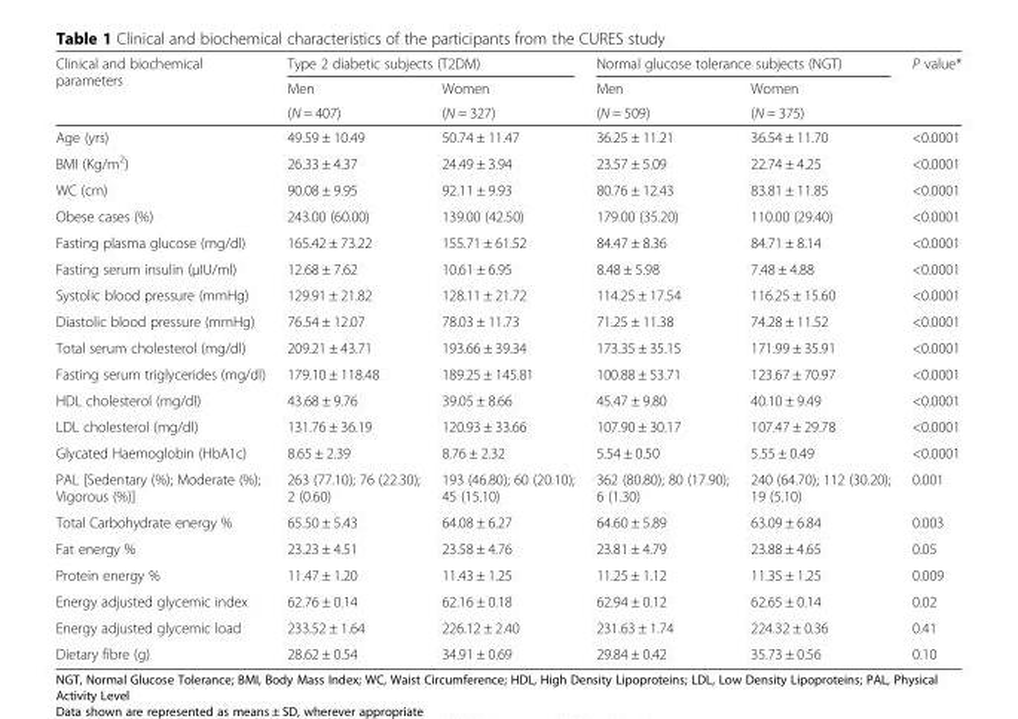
<table><thead><tr><td rowspan="3">Clinical and biochemical parameters</td><td colspan="2">Type 2 diabetic subjects (T2DM)</td><td colspan="2">Normal glucose tolerance subjects (NGT)</td><td rowspan="3">P value*</td></tr><tr><td rowspan="2">Men (N = 407)</td><td rowspan="2">Women (N = 327)</td><td rowspan="2">Men (N = 509)</td><td rowspan="2">Women (N = 375)</td></tr><tr></tr></thead><tbody><tr><td>Age (yrs)</td><td>49.59 ± 10.49</td><td>50.74 ± 11.47</td><td>36.25 ± 11.21</td><td>36.54 ± 11.70</td><td>&lt;0.0001</td></tr><tr><td>BMI (Kg/m<sup>2</sup>)</td><td>26.33 ± 4.37</td><td>24.49 ± 3.94</td><td>23.57 ± 5.09</td><td>22.74 ± 4.25</td><td>&lt;0.0001</td></tr><tr><td>WC (cm)</td><td>90.08 ± 9.95</td><td>92.11 ± 9.93</td><td>80.76 ± 12.43</td><td>83.81 ± 11.85</td><td>&lt;0.0001</td></tr><tr><td>Obese cases (%)</td><td>243.00 (60.00)</td><td>139.00 (42.50)</td><td>179.00 (35.20)</td><td>110.00 (29.40)</td><td>&lt;0.0001</td></tr><tr><td>Fasting plasma glucose (mg/dl)</td><td>165.42 ± 73.22</td><td>155.71 ± 61.52</td><td>84.47 ± 8.36</td><td>84.71 ± 8.14</td><td>&lt;0.0001</td></tr><tr><td>Fasting serum insulin (μIU/ml)</td><td>12.68 ± 7.62</td><td>10.61 ± 6.95</td><td>8.48 ± 5.98</td><td>7.48 ± 4.88</td><td>&lt;0.0001</td></tr><tr><td>Systolic blood pressure (mmHg)</td><td>129.91 ± 21.82</td><td>128.11 ± 21.72</td><td>114.25 ± 17.54</td><td>116.25 ± 15.60</td><td>&lt;0.0001</td></tr><tr><td>Diastolic blood pressure (mmHg)</td><td>76.54 ± 12.07</td><td>78.03 ± 11.73</td><td>71.25 ± 11.38</td><td>74.28 ± 11.52</td><td>&lt;0.0001</td></tr><tr><td>Total serum cholesterol (mg/dl)</td><td>209.21 ± 43.71</td><td>193.66 ± 39.34</td><td>173.35 ± 35.15</td><td>171.99 ± 35.91</td><td>&lt;0.0001</td></tr><tr><td>Fasting serum triglycerides (mg/dl)</td><td>179.10 ± 118.48</td><td>189.25 ± 145.81</td><td>100.88 ± 53.71</td><td>123.67 ± 70.97</td><td>&lt;0.0001</td></tr><tr><td>HDL cholesterol (mg/dl)</td><td>43.68 ± 9.76</td><td>39.05 ± 8.66</td><td>45.47 ± 9.80</td><td>40.10 ± 9.49</td><td>&lt;0.0001</td></tr><tr><td>LDL cholesterol (mg/dl)</td><td>131.76 ± 36.19</td><td>120.93 ± 33.66</td><td>107.90 ± 30.17</td><td>107.47 ± 29.78</td><td>&lt;0.0001</td></tr><tr><td>Glycated Haemoglobin (HbA1c)</td><td>8.65 ± 2.39</td><td>8.76 ± 2.32</td><td>5.54 ± 0.50</td><td>5.55 ± 0.49</td><td>&lt;0.0001</td></tr><tr><td>PAL [Sedentary (%); Moderate (%); Vigorous (%)]</td><td>263 (77.10); 76 (22.30); 2 (0.60)</td><td>193 (46.80); 60 (20.10); 45 (15.10)</td><td>362 (80.80); 80 (17.90); 6 (1.30)</td><td>240 (64.70); 112 (30.20); 19 (5.10)</td><td>0.001</td></tr><tr><td>Total Carbohydrate energy %</td><td>65.50 ± 5.43</td><td>64.08 ± 6.27</td><td>64.60 ± 5.89</td><td>63.09 ± 6.84</td><td>0.003</td></tr><tr><td>Fat energy %</td><td>23.23 ± 4.51</td><td>23.58 ± 4.76</td><td>23.81 ± 4.79</td><td>23.88 ± 4.65</td><td>0.05</td></tr><tr><td>Protein energy %</td><td>11.47 ± 1.20</td><td>11.43 ± 1.25</td><td>11.25 ± 1.12</td><td>11.35 ± 1.25</td><td>0.009</td></tr><tr><td>Energy adjusted glycemic index</td><td>62.76 ± 0.14</td><td>62.16 ± 0.18</td><td>62.94 ± 0.12</td><td>62.65 ± 0.14</td><td>0.02</td></tr><tr><td>Energy adjusted glycemic load</td><td>233.52 ± 1.64</td><td>226.12 ± 2.40</td><td>231.63 ± 1.74</td><td>224.32 ± 0.36</td><td>0.41</td></tr><tr><td>Dietary fibre (g)</td><td>28.62 ± 0.54</td><td>34.91 ± 0.69</td><td>29.84 ± 0.42</td><td>35.73 ± 0.56</td><td>0.10</td></tr></tbody></table>